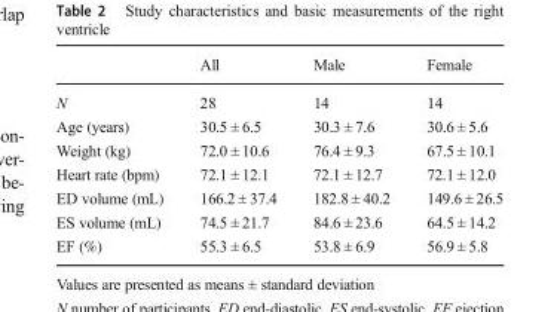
<table><thead><tr><td></td><td>All</td><td>Male</td><td>Female</td></tr></thead><tbody><tr><td>N</td><td>28</td><td>14</td><td>14</td></tr><tr><td>Age (years)</td><td>30.5 ± 6.5</td><td>30.3 ± 7.6</td><td>30.6 ± 5.6</td></tr><tr><td>Weight (kg)</td><td>72.0 ± 10.6</td><td>76.4 ± 9.3</td><td>67.5 ± 10.1</td></tr><tr><td>Heart rate (bpm)</td><td>72.1 ± 12.1</td><td>72.1 ± 12.7</td><td>72.1 ± 12.0</td></tr><tr><td>ED volume (mL)</td><td>166.2 ± 37.4</td><td>182.8 ± 40.2</td><td>149.6 ± 26.5</td></tr><tr><td>ES volume (mL)</td><td>74.5 ± 21.7</td><td>84.6 ± 23.6</td><td>64.5 ± 14.2</td></tr><tr><td>EF (%)</td><td>55.3 ± 6.5</td><td>53.8 ± 6.9</td><td>56.9 ± 5.8</td></tr></tbody></table>